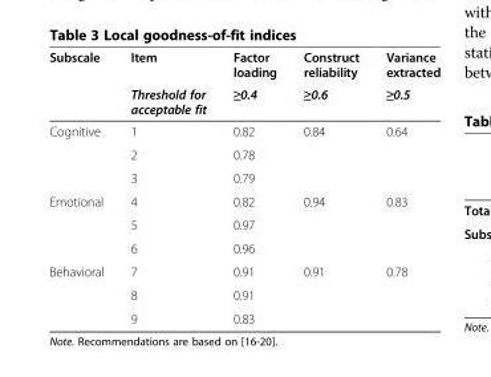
<table><thead><tr><td rowspan="2">Subscale</td><td rowspan="2">Item Threshold for acceptable fit</td><td rowspan="2">Factor loading ≥0.4</td><td rowspan="2">Construct reliability ≥0.6</td><td rowspan="2">Variance extracted ≥0.5</td></tr><tr></tr></thead><tbody><tr><td rowspan="3">Cognitive</td><td>1</td><td>0.82</td><td>0.84</td><td>0.64</td></tr><tr><td>2</td><td>0.78</td><td></td><td></td></tr><tr><td>3</td><td>0.79</td><td></td><td></td></tr><tr><td rowspan="3">Emotional</td><td>4</td><td>0.82</td><td>0.94</td><td>0.83</td></tr><tr><td>5</td><td>0.97</td><td></td><td></td></tr><tr><td>6</td><td>0.96</td><td></td><td></td></tr><tr><td rowspan="3">Behavioral</td><td>7</td><td>0.91</td><td>0.91</td><td>0.78</td></tr><tr><td>8</td><td>0.91</td><td></td><td></td></tr><tr><td>9</td><td>0.83</td><td></td><td></td></tr></tbody></table>